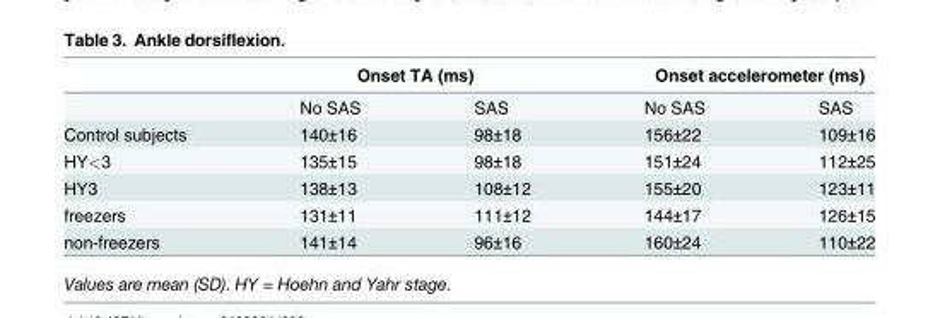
<table><thead><tr><td rowspan="2"></td><td colspan="2">Onset TA (ms)</td><td colspan="2">Onset accelerometer (ms)</td></tr><tr><td>No SAS</td><td>SAS</td><td>No SAS</td><td>SAS</td></tr></thead><tbody><tr><td>Control subjects</td><td>140±16</td><td>98±18</td><td>156±22</td><td>109±16</td></tr><tr><td>HY&lt;3</td><td>135±15</td><td>98±18</td><td>151±24</td><td>112±25</td></tr><tr><td>HY3</td><td>138±13</td><td>108±12</td><td>155±20</td><td>123±11</td></tr><tr><td>freezers</td><td>131±11</td><td>111±12</td><td>144±17</td><td>126±15</td></tr><tr><td>non-freezers</td><td>141±14</td><td>96±16</td><td>160±24</td><td>110±22</td></tr></tbody></table>